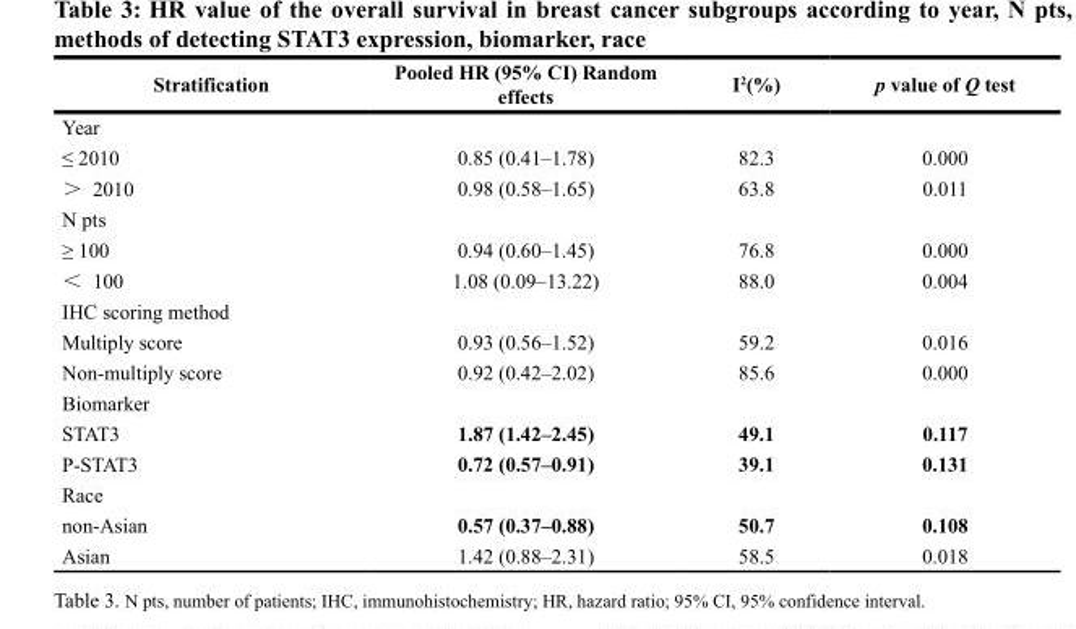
<table><thead><tr><td>Stratification</td><td>Pooled HR (95% CI) Random effects</td><td>I<sup>2</sup>(%)</td><td>p value of Q test</td></tr></thead><tbody><tr><td colspan="4">Year</td></tr><tr><td>≤ 2010</td><td>0.85 (0.41–1.78)</td><td>82.3</td><td>0.000</td></tr><tr><td>＞ 2010</td><td>0.98 (0.58–1.65)</td><td>63.8</td><td>0.011</td></tr><tr><td colspan="4">N pts</td></tr><tr><td>≥ 100</td><td>0.94 (0.60–1.45)</td><td>76.8</td><td>0.000</td></tr><tr><td>＜ 100</td><td>1.08 (0.09–13.22)</td><td>88.0</td><td>0.004</td></tr><tr><td colspan="4">IHC scoring method</td></tr><tr><td>Multiply score</td><td>0.93 (0.56–1.52)</td><td>59.2</td><td>0.016</td></tr><tr><td>Non-multiply score</td><td>0.92 (0.42–2.02)</td><td>85.6</td><td>0.000</td></tr><tr><td colspan="4">Biomarker</td></tr><tr><td>STAT3</td><td>1.87 (1.42–2.45)</td><td>49.1</td><td>0.117</td></tr><tr><td>P-STAT3</td><td>0.72 (0.57–0.91)</td><td>39.1</td><td>0.131</td></tr><tr><td colspan="4">Race</td></tr><tr><td>non-Asian</td><td>0.57 (0.37–0.88)</td><td>50.7</td><td>0.108</td></tr><tr><td>Asian</td><td>1.42 (0.88–2.31)</td><td>58.5</td><td>0.018</td></tr></tbody></table>